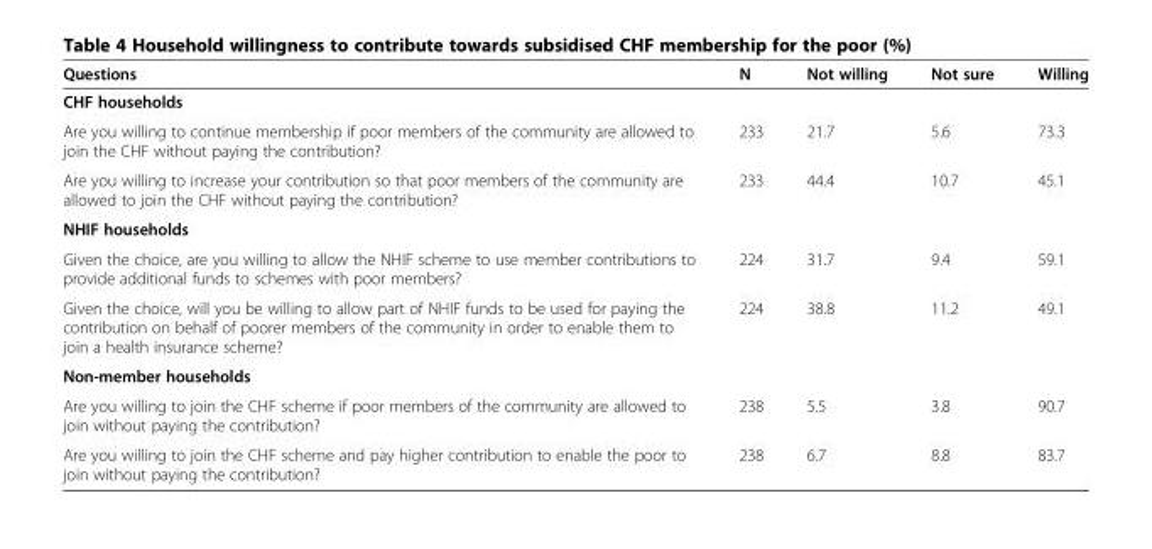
<table><thead><tr><td>Questions</td><td>N</td><td>Not willing</td><td>Not sure</td><td>Willing</td></tr></thead><tbody><tr><td colspan="5">CHF households</td></tr><tr><td>Are you willing to continue membership if poor members of the community are allowed to join the CHF without paying the contribution?</td><td>233</td><td>21.7</td><td>5.6</td><td>73.3</td></tr><tr><td>Are you willing to increase your contribution so that poor members of the community are allowed to join the CHF without paying the contribution?</td><td>233</td><td>44.4</td><td>10.7</td><td>45.1</td></tr><tr><td colspan="5">NHIF households</td></tr><tr><td>Given the choice, are you willing to allow the NHIF scheme to use member contributions to provide additional funds to schemes with poor members?</td><td>224</td><td>31.7</td><td>9.4</td><td>59.1</td></tr><tr><td>Given the choice, will you be willing to allow part of NHIF funds to be used for paying the contribution on behalf of poorer members of the community in order to enable them to join a health insurance scheme?</td><td>224</td><td>38.8</td><td>11.2</td><td>49.1</td></tr><tr><td colspan="5">Non-member households</td></tr><tr><td>Are you willing to join the CHF scheme if poor members of the community are allowed to join without paying the contribution?</td><td>238</td><td>5.5</td><td>3.8</td><td>90.7</td></tr><tr><td>Are you willing to join the CHF scheme and pay higher contribution to enable the poor to join without paying the contribution?</td><td>238</td><td>6.7</td><td>8.8</td><td>83.7</td></tr></tbody></table>